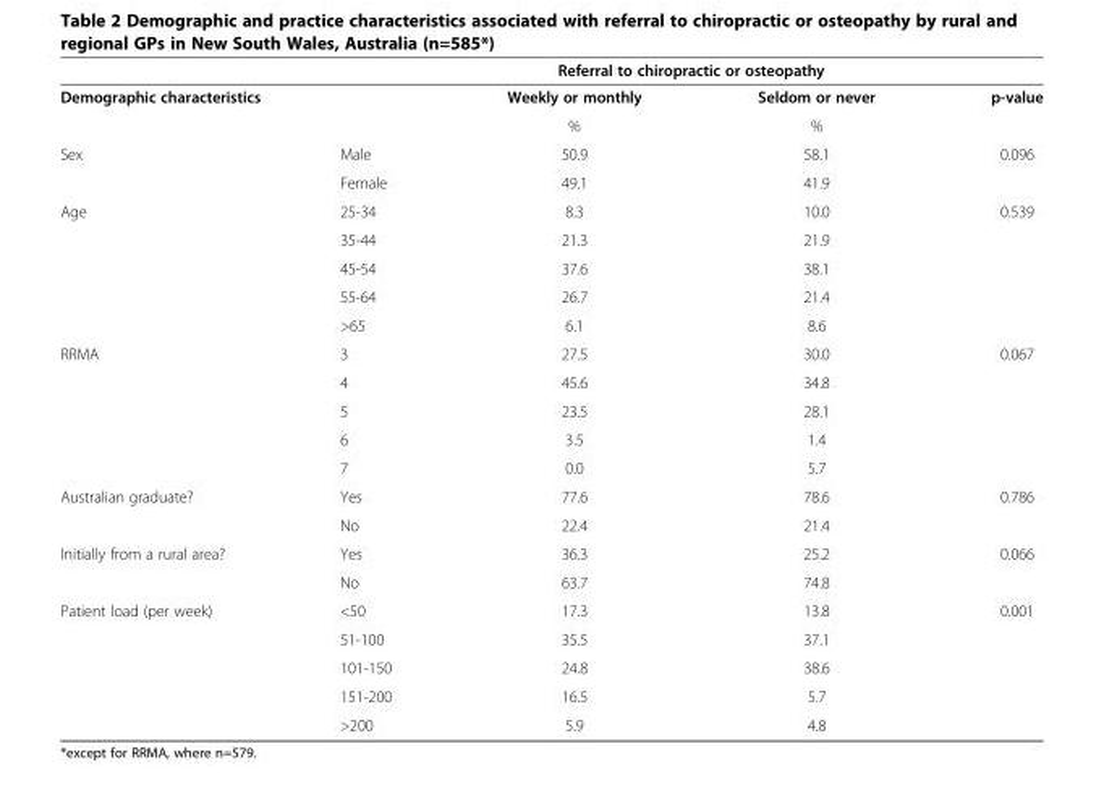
<table><thead><tr><td></td><td></td><td colspan="2">Referral to chiropractic or osteopathy</td><td rowspan="2">p-value</td></tr><tr><td colspan="2">Demographic characteristics</td><td>Weekly or monthly</td><td>Seldom or never</td></tr></thead><tbody><tr><td colspan="2"></td><td>%</td><td>%</td><td></td></tr><tr><td rowspan="2">Sex</td><td>Male</td><td>50.9</td><td>58.1</td><td>0.096</td></tr><tr><td>Female</td><td>49.1</td><td>41.9</td><td></td></tr><tr><td rowspan="5">Age</td><td>25-34</td><td>8.3</td><td>10.0</td><td>0.539</td></tr><tr><td>35-44</td><td>21.3</td><td>21.9</td><td></td></tr><tr><td>45-54</td><td>37.6</td><td>38.1</td><td></td></tr><tr><td>55-64</td><td>26.7</td><td>21.4</td><td></td></tr><tr><td>&gt;65</td><td>6.1</td><td>8.6</td><td></td></tr><tr><td rowspan="5">RRMA</td><td>3</td><td>27.5</td><td>30.0</td><td>0.067</td></tr><tr><td>4</td><td>45.6</td><td>34.8</td><td></td></tr><tr><td>5</td><td>23.5</td><td>28.1</td><td></td></tr><tr><td>6</td><td>3.5</td><td>1.4</td><td></td></tr><tr><td>7</td><td>0.0</td><td>5.7</td><td></td></tr><tr><td rowspan="2">Australian graduate?</td><td>Yes</td><td>77.6</td><td>78.6</td><td>0.786</td></tr><tr><td>No</td><td>22.4</td><td>21.4</td><td></td></tr><tr><td rowspan="2">Initially from a rural area?</td><td>Yes</td><td>36.3</td><td>25.2</td><td>0.066</td></tr><tr><td>No</td><td>63.7</td><td>74.8</td><td></td></tr><tr><td rowspan="5">Patient load (per week)</td><td>&lt;50</td><td>17.3</td><td>13.8</td><td>0.001</td></tr><tr><td>51-100</td><td>35.5</td><td>37.1</td><td></td></tr><tr><td>101-150</td><td>24.8</td><td>38.6</td><td></td></tr><tr><td>151-200</td><td>16.5</td><td>5.7</td><td></td></tr><tr><td>&gt;200</td><td>5.9</td><td>4.8</td><td></td></tr></tbody></table>